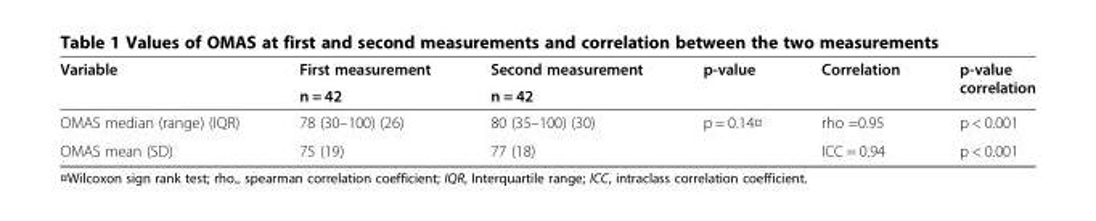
<table><thead><tr><td rowspan="2">Variable</td><td rowspan="2">First measurement n = 42</td><td rowspan="2">Second measurement n = 42</td><td rowspan="2">p-value</td><td rowspan="2">Correlation</td><td rowspan="2">p-value correlation</td></tr><tr></tr></thead><tbody><tr><td>OMAS median (range) (IQR)</td><td>78 (30–100) (26)</td><td>80 (35–100) (30)</td><td>p = 0.14¤</td><td>rho =0.95</td><td>p &lt; 0.001</td></tr><tr><td>OMAS mean (SD)</td><td>75 (19)</td><td>77 (18)</td><td></td><td>ICC = 0.94</td><td>p &lt; 0.001</td></tr></tbody></table>